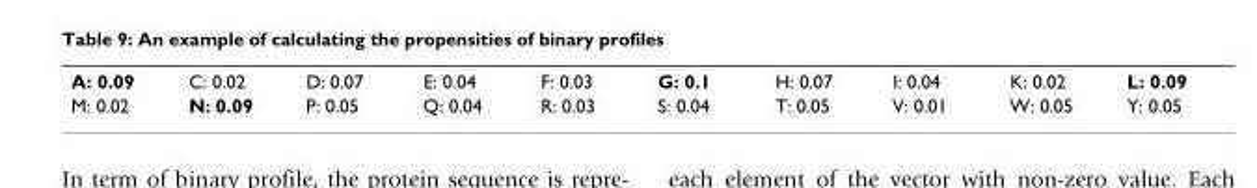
<table><tbody><tr><td>A: 0.09</td><td>C: 0.02</td><td>D: 0.07</td><td>E: 0.04</td><td>F: 0.03</td><td>G: 0.1</td><td>H: 0.07</td><td>I: 0.04</td><td>K: 0.02</td><td>L: 0.09</td></tr><tr><td>M: 0.02</td><td>N: 0.09</td><td>P: 0.05</td><td>Q: 0.04</td><td>R: 0.03</td><td>S: 0.04</td><td>T: 0.05</td><td>V: 0.01</td><td>W: 0.05</td><td>Y: 0.05</td></tr></tbody></table>